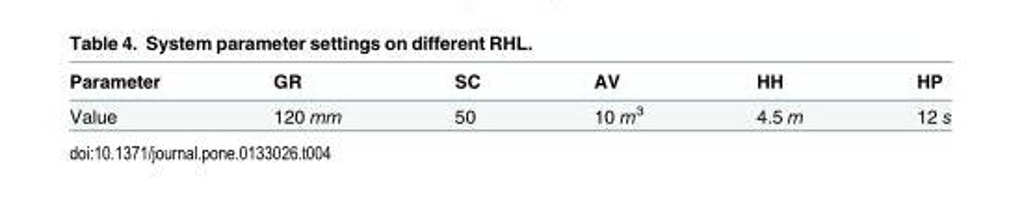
<table><thead><tr><td>Parameter</td><td>GR</td><td>SC</td><td>AV</td><td>HH</td><td>HP</td></tr></thead><tbody><tr><td>Value</td><td>120 mm</td><td>50</td><td>10 m<sup>3</sup></td><td>4.5 m</td><td>12 s</td></tr></tbody></table>